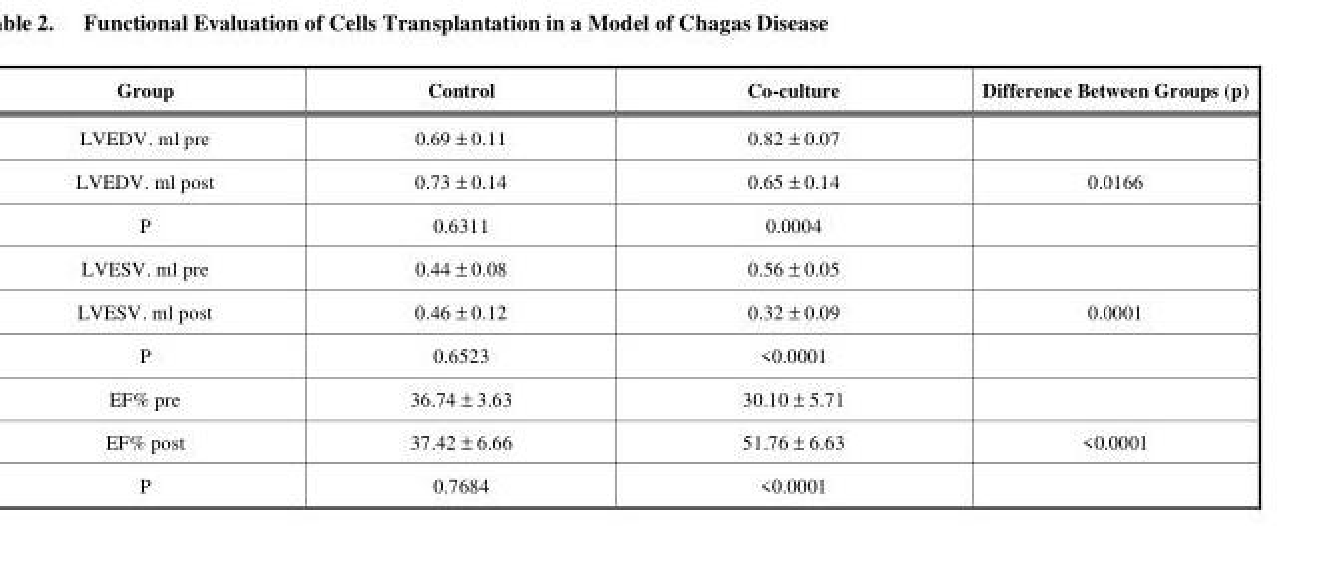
<table><thead><tr><td>Group</td><td>Control</td><td>Co-culture</td><td>Difference Between Groups (p)</td></tr></thead><tbody><tr><td>LVEDV. ml pre</td><td>0.69 ± 0.11</td><td>0.82 ± 0.07</td><td></td></tr><tr><td>LVEDV. ml post</td><td>0.73 ± 0.14</td><td>0.65 ± 0.14</td><td>0.0166</td></tr><tr><td>P</td><td>0.6311</td><td>0.0004</td><td></td></tr><tr><td>LVESV. ml pre</td><td>0.44 ± 0.08</td><td>0.56 ± 0.05</td><td></td></tr><tr><td>LVESV. ml post</td><td>0.46 ± 0.12</td><td>0.32 ± 0.09</td><td>0.0001</td></tr><tr><td>P</td><td>0.6523</td><td>&lt;0.0001</td><td></td></tr><tr><td>EF% pre</td><td>36.74 ± 3.63</td><td>30.10 ± 5.71</td><td></td></tr><tr><td>EF% post</td><td>37.42 ± 6.66</td><td>51.76 ± 6.63</td><td>&lt;0.0001</td></tr><tr><td>P</td><td>0.7684</td><td>&lt;0.0001</td><td></td></tr></tbody></table>